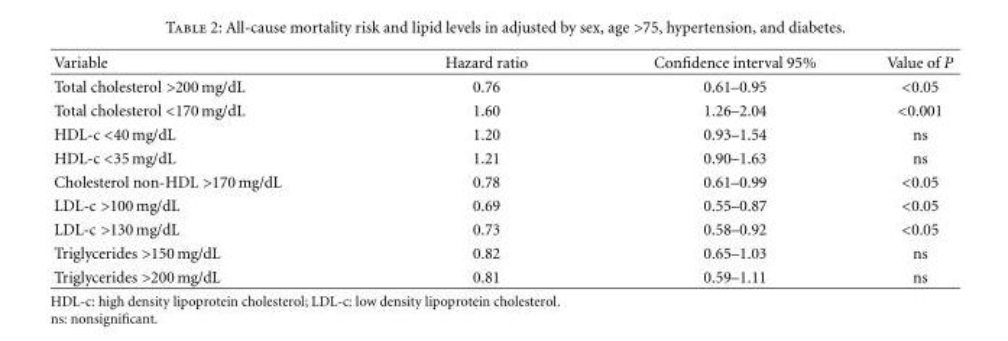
<table><thead><tr><td>Variable</td><td>Hazard ratio</td><td>Confidence interval 95%</td><td>Value of P</td></tr></thead><tbody><tr><td>Total cholesterol &gt;200 mg/dL</td><td>0.76</td><td>0.61–0.95</td><td>&lt;0.05</td></tr><tr><td>Total cholesterol &lt;170 mg/dL</td><td>1.60</td><td>1.26–2.04</td><td>&lt;0.001</td></tr><tr><td>HDL-c &lt;40 mg/dL</td><td>1.20</td><td>0.93–1.54</td><td>ns</td></tr><tr><td>HDL-c &lt;35 mg/dL</td><td>1.21</td><td>0.90–1.63</td><td>ns</td></tr><tr><td>Cholesterol non-HDL &gt;170 mg/dL</td><td>0.78</td><td>0.61–0.99</td><td>&lt;0.05</td></tr><tr><td>LDL-c &gt;100 mg/dL</td><td>0.69</td><td>0.55–0.87</td><td>&lt;0.05</td></tr><tr><td>LDL-c &gt;130 mg/dL</td><td>0.73</td><td>0.58–0.92</td><td>&lt;0.05</td></tr><tr><td>Triglycerides &gt;150 mg/dL</td><td>0.82</td><td>0.65–1.03</td><td>ns</td></tr><tr><td>Triglycerides &gt;200 mg/dL</td><td>0.81</td><td>0.59–1.11</td><td>ns</td></tr></tbody></table>